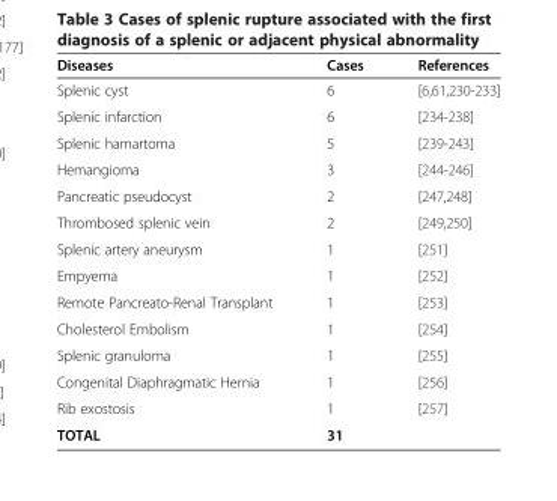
<table><thead><tr><td>Diseases</td><td>Cases</td><td>References</td></tr></thead><tbody><tr><td>Splenic cyst</td><td>6</td><td>[6,61,230-233]</td></tr><tr><td>Splenic infarction</td><td>6</td><td>[234-238]</td></tr><tr><td>Splenic hamartoma</td><td>5</td><td>[239-243]</td></tr><tr><td>Hemangioma</td><td>3</td><td>[244-246]</td></tr><tr><td>Pancreatic pseudocyst</td><td>2</td><td>[247,248]</td></tr><tr><td>Thrombosed splenic vein</td><td>2</td><td>[249,250]</td></tr><tr><td>Splenic artery aneurysm</td><td>1</td><td>[251]</td></tr><tr><td>Empyema</td><td>1</td><td>[252]</td></tr><tr><td>Remote Pancreato-Renal Transplant</td><td>1</td><td>[253]</td></tr><tr><td>Cholesterol Embolism</td><td>1</td><td>[254]</td></tr><tr><td>Splenic granuloma</td><td>1</td><td>[255]</td></tr><tr><td>Congenital Diaphragmatic Hernia</td><td>1</td><td>[256]</td></tr><tr><td>Rib exostosis</td><td>1</td><td>[257]</td></tr><tr><td>TOTAL</td><td>31</td><td></td></tr></tbody></table>